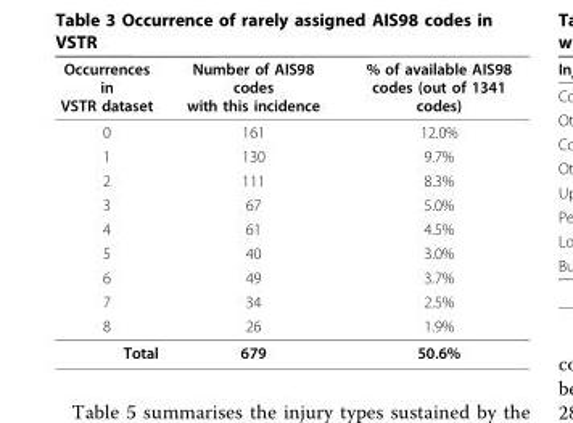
<table><thead><tr><td>Occurrences in VSTR dataset</td><td>Number of AIS98 codes with this incidence</td><td>% of available AIS98 codes (out of 1341 codes)</td></tr></thead><tbody><tr><td>0</td><td>161</td><td>12.0%</td></tr><tr><td>1</td><td>130</td><td>9.7%</td></tr><tr><td>2</td><td>111</td><td>8.3%</td></tr><tr><td>3</td><td>67</td><td>5.0%</td></tr><tr><td>4</td><td>61</td><td>4.5%</td></tr><tr><td>5</td><td>40</td><td>3.0%</td></tr><tr><td>6</td><td>49</td><td>3.7%</td></tr><tr><td>7</td><td>34</td><td>2.5%</td></tr><tr><td>8</td><td>26</td><td>1.9%</td></tr><tr><td>Total</td><td>679</td><td>50.6%</td></tr></tbody></table>